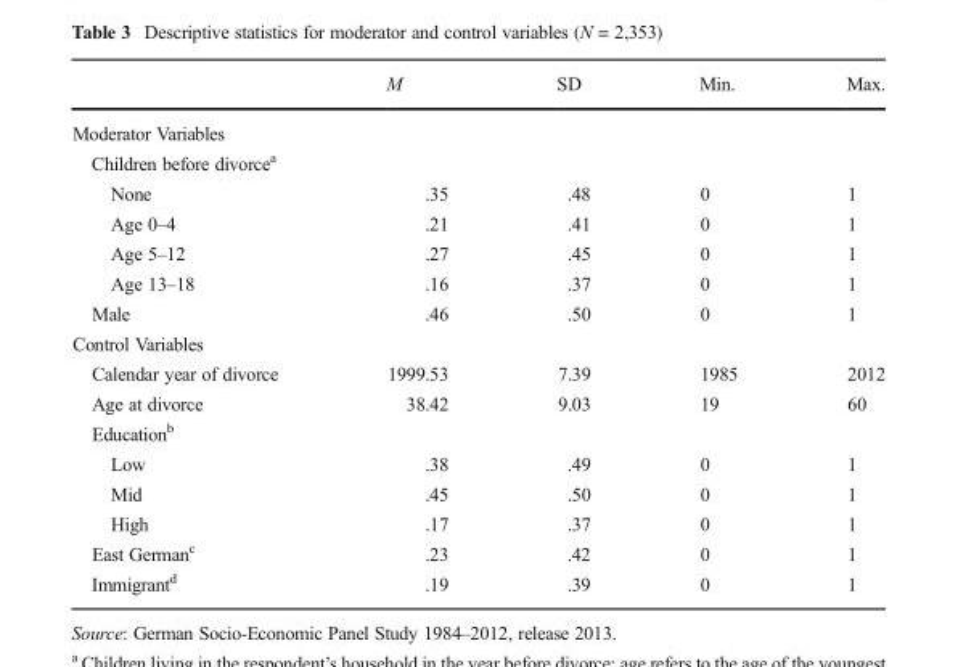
<table><thead><tr><td></td><td>M</td><td>SD</td><td>Min.</td><td>Max.</td></tr></thead><tbody><tr><td colspan="5">Moderator Variables</td></tr><tr><td colspan="5">Children before divorce<sup>a</sup></td></tr><tr><td>None</td><td>.35</td><td>.48</td><td>0</td><td>1</td></tr><tr><td>Age 0–4</td><td>.21</td><td>.41</td><td>0</td><td>1</td></tr><tr><td>Age 5–12</td><td>.27</td><td>.45</td><td>0</td><td>1</td></tr><tr><td>Age 13–18</td><td>.16</td><td>.37</td><td>0</td><td>1</td></tr><tr><td>Male</td><td>.46</td><td>.50</td><td>0</td><td>1</td></tr><tr><td colspan="5">Control Variables</td></tr><tr><td>Calendar year of divorce</td><td>1999.53</td><td>7.39</td><td>1985</td><td>2012</td></tr><tr><td>Age at divorce</td><td>38.42</td><td>9.03</td><td>19</td><td>60</td></tr><tr><td colspan="5">Education<sup>b</sup></td></tr><tr><td>Low</td><td>.38</td><td>.49</td><td>0</td><td>1</td></tr><tr><td>Mid</td><td>.45</td><td>.50</td><td>0</td><td>1</td></tr><tr><td>High</td><td>.17</td><td>.37</td><td>0</td><td>1</td></tr><tr><td>East German<sup>c</sup></td><td>.23</td><td>.42</td><td>0</td><td>1</td></tr><tr><td>Immigrant<sup>d</sup></td><td>.19</td><td>.39</td><td>0</td><td>1</td></tr></tbody></table>